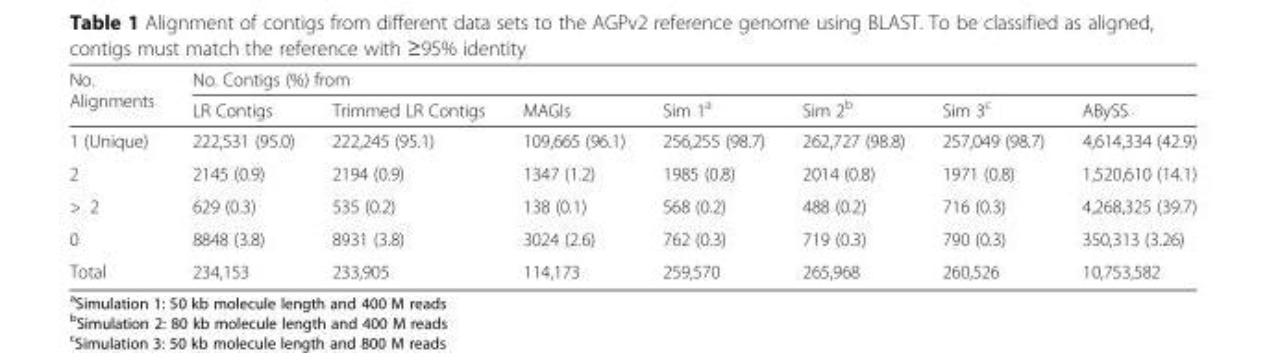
<table><thead><tr><td rowspan="2">No. Alignments</td><td colspan="7">No. Contigs (%) from</td></tr><tr><td>LR Contigs</td><td>Trimmed LR Contigs</td><td>MAGIs</td><td>Sim 1<sup>a</sup></td><td>Sim 2<sup>b</sup></td><td>Sim 3<sup>c</sup></td><td>ABySS</td></tr></thead><tbody><tr><td>1 (Unique)</td><td>222,531 (95.0)</td><td>222,245 (95.1)</td><td>109,665 (96.1)</td><td>256,255 (98.7)</td><td>262,727 (98.8)</td><td>257,049 (98.7)</td><td>4,614,334 (42.9)</td></tr><tr><td>2</td><td>2145 (0.9)</td><td>2194 (0.9)</td><td>1347 (1.2)</td><td>1985 (0.8)</td><td>2014 (0.8)</td><td>1971 (0.8)</td><td>1,520,610 (14.1)</td></tr><tr><td>&gt; 2</td><td>629 (0.3)</td><td>535 (0.2)</td><td>138 (0.1)</td><td>568 (0.2)</td><td>488 (0.2)</td><td>716 (0.3)</td><td>4,268,325 (39.7)</td></tr><tr><td>0</td><td>8848 (3.8)</td><td>8931 (3.8)</td><td>3024 (2.6)</td><td>762 (0.3)</td><td>719 (0.3)</td><td>790 (0.3)</td><td>350,313 (3.26)</td></tr><tr><td>Total</td><td>234,153</td><td>233,905</td><td>114,173</td><td>259,570</td><td>265,968</td><td>260,526</td><td>10,753,582</td></tr></tbody></table>